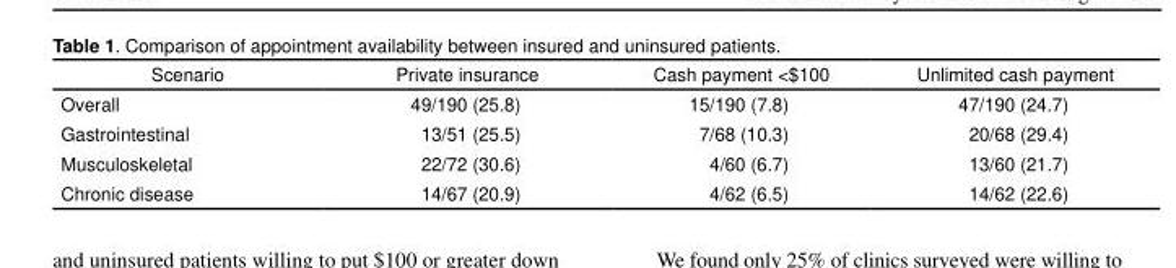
<table><thead><tr><td>Scenario</td><td>Private insurance</td><td>Cash payment &lt;$100</td><td>Unlimited cash payment</td></tr></thead><tbody><tr><td>Overall</td><td>49/190 (25.8)</td><td>15/190 (7.8)</td><td>47/190 (24.7)</td></tr><tr><td>Gastrointestinal</td><td>13/51 (25.5)</td><td>7/68 (10.3)</td><td>20/68 (29.4)</td></tr><tr><td>Musculoskeletal</td><td>22/72 (30.6)</td><td>4/60 (6.7)</td><td>13/60 (21.7)</td></tr><tr><td>Chronic disease</td><td>14/67 (20.9)</td><td>4/62 (6.5)</td><td>14/62 (22.6)</td></tr></tbody></table>